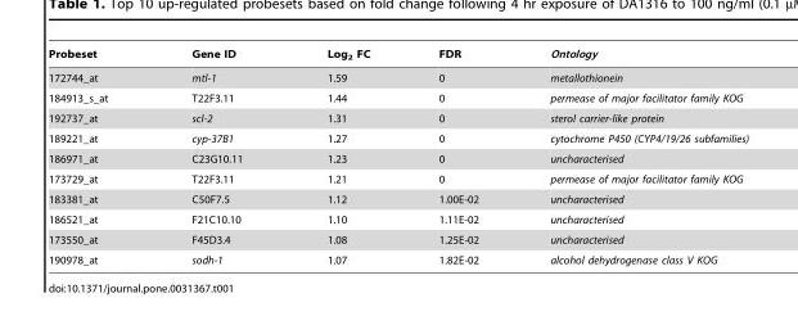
<table><thead><tr><td>Probeset</td><td>Gene ID</td><td>Log<sub>2</sub> FC</td><td>FDR</td><td>Ontology</td></tr></thead><tbody><tr><td>172744_at</td><td>mtl-1</td><td>1.59</td><td>0</td><td>metallothionein</td></tr><tr><td>184913_s_at</td><td>T22F3.11</td><td>1.44</td><td>0</td><td>permease of major facilitator family KOG</td></tr><tr><td>192737_at</td><td>scl-2</td><td>1.31</td><td>0</td><td>sterol carrier-like protein</td></tr><tr><td>189221_at</td><td>cyp-37B1</td><td>1.27</td><td>0</td><td>cytochrome P450 (CYP4/19/26 subfamilies)</td></tr><tr><td>186971_at</td><td>C23G10.11</td><td>1.23</td><td>0</td><td>uncharacterised</td></tr><tr><td>173729_at</td><td>T22F3.11</td><td>1.21</td><td>0</td><td>permease of major facilitator family KOG</td></tr><tr><td>183381_at</td><td>C50F7.5</td><td>1.12</td><td>1.00E-02</td><td>uncharacterised</td></tr><tr><td>186521_at</td><td>F21C10.10</td><td>1.10</td><td>1.11E-02</td><td>uncharacterised</td></tr><tr><td>173550_at</td><td>F45D3.4</td><td>1.08</td><td>1.25E-02</td><td>uncharacterised</td></tr><tr><td>190978_at</td><td>sodh-1</td><td>1.07</td><td>1.82E-02</td><td>alcohol dehydrogenase class V KOG</td></tr></tbody></table>